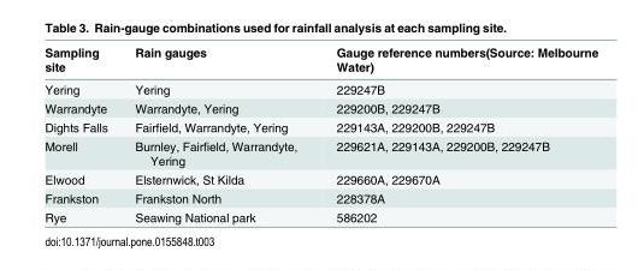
<table><thead><tr><td>Sampling site</td><td>Rain gauges</td><td>Gauge reference numbers(Source: Melbourne Water)</td></tr></thead><tbody><tr><td>Yering</td><td>Yering</td><td>229247B</td></tr><tr><td>Warrandyte</td><td>Warrandyte, Yering</td><td>229200B, 229247B</td></tr><tr><td>Dights Falls</td><td>Fairfield, Warrandyte, Yering</td><td>229143A, 229200B, 229247B</td></tr><tr><td>Morell</td><td>Burnley, Fairfield, Warrandyte, Yering</td><td>229621A, 229143A, 229200B, 229247B</td></tr><tr><td>Elwood</td><td>Elsternwick, St Kilda</td><td>229660A, 229670A</td></tr><tr><td>Frankston</td><td>Frankston North</td><td>228378A</td></tr><tr><td>Rye</td><td>Seawing National park</td><td>586202</td></tr></tbody></table>